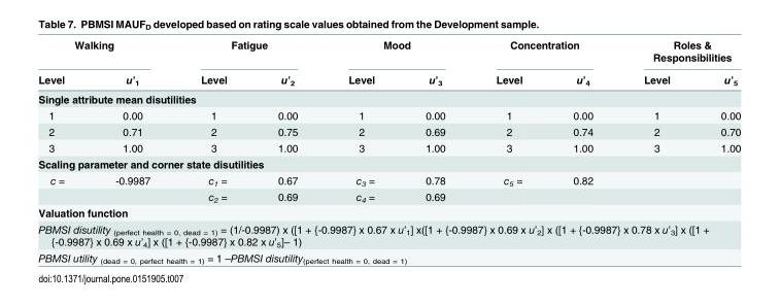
<table><thead><tr><td colspan="2">Walking</td><td colspan="2">Fatigue</td><td colspan="2">Mood</td><td colspan="2">Concentration</td><td colspan="2">Roles &amp; Responsibilities</td></tr><tr><td>Level</td><td>u’<sub>1</sub></td><td>Level</td><td>u’<sub>2</sub></td><td>Level</td><td>u’<sub>3</sub></td><td>Level</td><td>u’<sub>4</sub></td><td>Level</td><td>u’<sub>5</sub></td></tr></thead><tbody><tr><td colspan="10">Single attribute mean disutilities</td></tr><tr><td>1</td><td>0.00</td><td>1</td><td>0.00</td><td>1</td><td>0.00</td><td>1</td><td>0.00</td><td>1</td><td>0.00</td></tr><tr><td>2</td><td>0.71</td><td>2</td><td>0.75</td><td>2</td><td>0.69</td><td>2</td><td>0.74</td><td>2</td><td>0.70</td></tr><tr><td>3</td><td>1.00</td><td>3</td><td>1.00</td><td>3</td><td>1.00</td><td>3</td><td>1.00</td><td>3</td><td>1.00</td></tr><tr><td colspan="10">Scaling parameter and corner state disutilities</td></tr><tr><td rowspan="2">c =</td><td>-0.9987</td><td>c<sub>1</sub> =</td><td>0.67</td><td>c<sub>3</sub> =</td><td>0.78</td><td>c<sub>5</sub> =</td><td>0.82</td><td></td><td></td></tr><tr><td></td><td>c<sub>2</sub> =</td><td>0.69</td><td>c<sub>4</sub> =</td><td>0.69</td><td></td><td></td><td></td><td></td></tr><tr><td colspan="10">Valuation function</td></tr><tr><td colspan="10">PBMSI disutility <sub>(perfect health = 0, dead = 1)</sub> = (1/-0.9987) x ([1 + {-0.9987} x 0.67 x u’<sub>1</sub>] x([1 + {-0.9987} x 0.69 x u’<sub>2</sub>] x ([1 + {-0.9987} x 0.78 x u’<sub>3</sub>] x ([1 + {-0.9987} x 0.69 x u’<sub>4</sub>] x ([1 + {-0.9987} x 0.82 x u’<sub>5</sub>]– 1)</td></tr><tr><td colspan="10">PBMSI utility <sub>(dead = 0, perfect health = 1)</sub> = 1 –PBMSI disutility<sub>(perfect health = 0, dead = 1)</sub></td></tr></tbody></table>